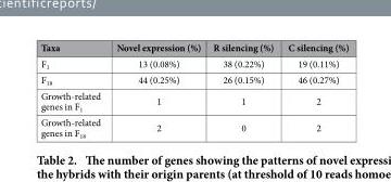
<table><thead><tr><td>Taxa</td><td>Novel expression (%)</td><td>R silencing (%)</td><td>C silencing (%)</td></tr></thead><tbody><tr><td>F<sub>1</sub></td><td>13 (0.08%)</td><td>38 (0.22%)</td><td>19 (0.11%)</td></tr><tr><td>F<sub>18</sub></td><td>44 (0.25%)</td><td>26 (0.15%)</td><td>46 (0.27%)</td></tr><tr><td>Growth-related genes in F<sub>1</sub></td><td>1</td><td>1</td><td>2</td></tr><tr><td>Growth-related genes in F<sub>18</sub></td><td>2</td><td>0</td><td>2</td></tr></tbody></table>